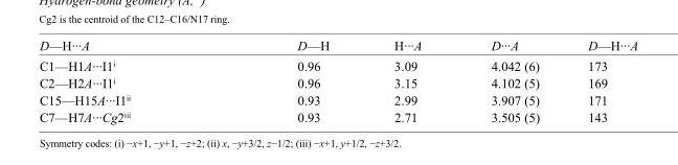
<table><tbody><tr><td>D—H···A</td><td>D—H</td><td>H···A</td><td>D···A</td><td>D—H···A</td></tr><tr><td>C1—H1A···I1<sup>i</sup></td><td>0.96</td><td>3.09</td><td>4.042 (6)</td><td>173</td></tr><tr><td>C2—H2A···I1<sup>i</sup></td><td>0.96</td><td>3.15</td><td>4.102 (5)</td><td>169</td></tr><tr><td>C15—H15A···I1<sup>ii</sup></td><td>0.93</td><td>2.99</td><td>3.907 (5)</td><td>171</td></tr><tr><td>C7—H7A···Cg2<sup>iii</sup></td><td>0.93</td><td>2.71</td><td>3.505 (5)</td><td>143</td></tr></tbody></table>